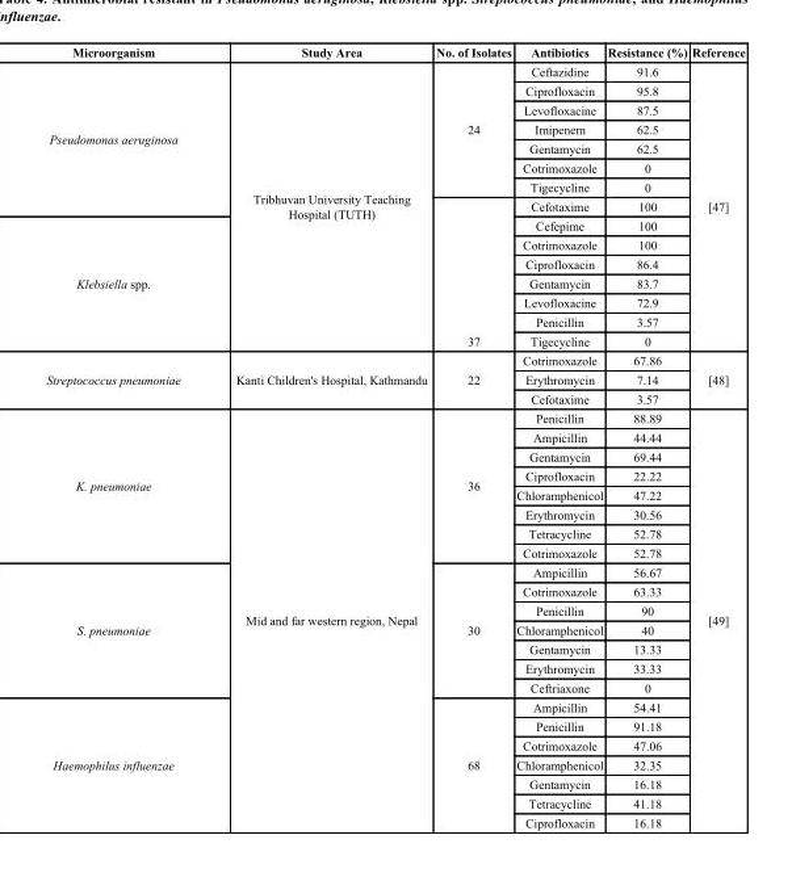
<table><thead><tr><td>Microorganism</td><td>Study Area</td><td>No. of Isolates</td><td>Antibiotics</td><td>Resistance (%)</td><td>Reference</td></tr></thead><tbody><tr><td rowspan="8">Pseudomonas aeruginosa</td><td rowspan="15">Tribhuvan University Teaching Hospital (TUTH)</td><td rowspan="7">24</td><td>Ceftazidine</td><td>91.6</td><td rowspan="15">[47]</td></tr><tr><td>Ciprofloxacin</td><td>95.8</td></tr><tr><td>Levofloxacine</td><td>87.5</td></tr><tr><td>Imipenem</td><td>62.5</td></tr><tr><td>Gentamycin</td><td>62.5</td></tr><tr><td>Cotrimoxazole</td><td>0</td></tr><tr><td>Tigecycline</td><td>0</td></tr><tr><td rowspan="8">37</td><td>Cefotaxime</td><td>100</td></tr><tr><td rowspan="7">Klebsiella spp.</td><td>Cefepime</td><td>100</td></tr><tr><td>Cotrimoxazole</td><td>100</td></tr><tr><td>Ciprofloxacin</td><td>86.4</td></tr><tr><td>Gentamycin</td><td>83.7</td></tr><tr><td>Levofloxacine</td><td>72.9</td></tr><tr><td>Penicillin</td><td>3.57</td></tr><tr><td>Tigecycline</td><td>0</td></tr><tr><td rowspan="3">Streptococcus pneumoniae</td><td rowspan="3">Kanti Children&#x27;s Hospital, Kathmandu</td><td rowspan="3">22</td><td>Cotrimoxazole</td><td>67.86</td><td rowspan="3">[48]</td></tr><tr><td>Erythromycin</td><td>7.14</td></tr><tr><td>Cefotaxime</td><td>3.57</td></tr><tr><td rowspan="8">K. pneumoniae</td><td rowspan="22">Mid and far western region, Nepal</td><td rowspan="8">36</td><td>Penicillin</td><td>88.89</td><td rowspan="22">[49]</td></tr><tr><td>Ampicillin</td><td>44.44</td></tr><tr><td>Gentamycin</td><td>69.44</td></tr><tr><td>Ciprofloxacin</td><td>22.22</td></tr><tr><td>Chloramphenicol</td><td>47.22</td></tr><tr><td>Erythromycin</td><td>30.56</td></tr><tr><td>Tetracycline</td><td>52.78</td></tr><tr><td>Cotrimoxazole</td><td>52.78</td></tr><tr><td rowspan="7">S. pneumoniae</td><td rowspan="7">30</td><td>Ampicillin</td><td>56.67</td></tr><tr><td>Cotrimoxazole</td><td>63.33</td></tr><tr><td>Penicillin</td><td>90</td></tr><tr><td>Chloramphenicol</td><td>40</td></tr><tr><td>Gentamycin</td><td>13.33</td></tr><tr><td>Erythromycin</td><td>33.33</td></tr><tr><td>Ceftriaxone</td><td>0</td></tr><tr><td rowspan="7">Haemophilus influenzae</td><td rowspan="7">68</td><td>Ampicillin</td><td>54.41</td></tr><tr><td>Penicillin</td><td>91.18</td></tr><tr><td>Cotrimoxazole</td><td>47.06</td></tr><tr><td>Chloramphenicol</td><td>32.35</td></tr><tr><td>Gentamycin</td><td>16.18</td></tr><tr><td>Tetracycline</td><td>41.18</td></tr><tr><td>Ciprofloxacin</td><td>16.18</td></tr></tbody></table>